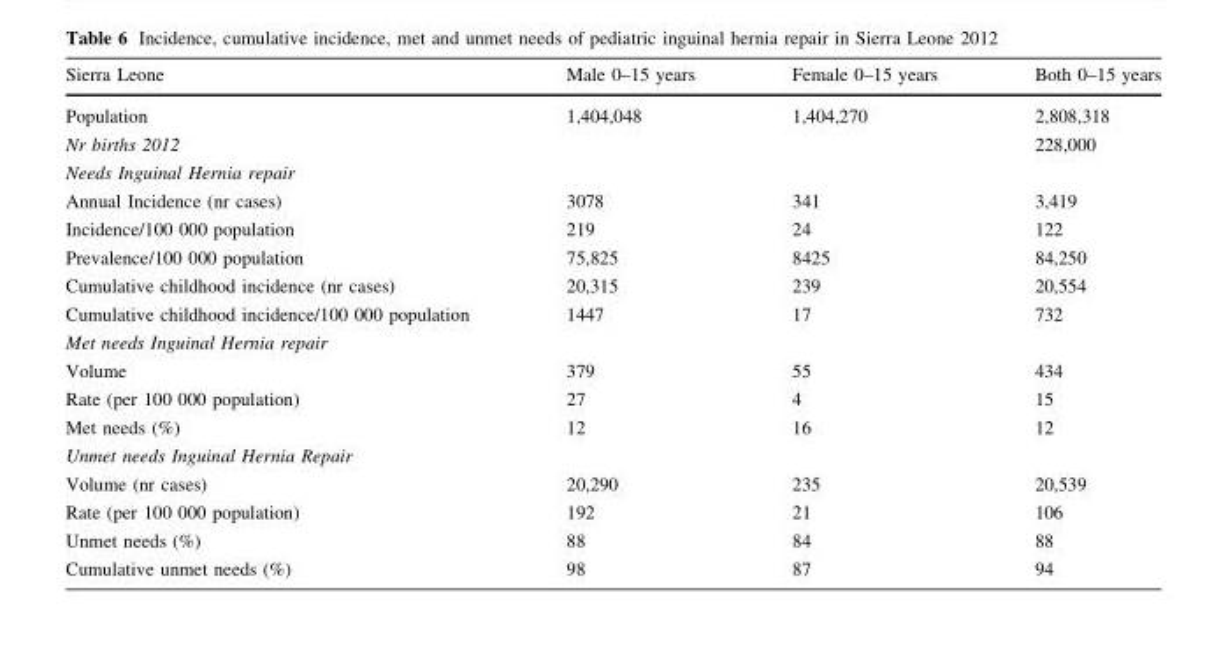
<table><thead><tr><td>Sierra Leone</td><td>Male 0–15 years</td><td>Female 0–15 years</td><td>Both 0–15 years</td></tr></thead><tbody><tr><td>Population</td><td>1,404,048</td><td>1,404,270</td><td>2,808,318</td></tr><tr><td>Nr births 2012</td><td></td><td></td><td>228,000</td></tr><tr><td colspan="4">Needs Inguinal Hernia repair</td></tr><tr><td>Annual Incidence (nr cases)</td><td>3078</td><td>341</td><td>3,419</td></tr><tr><td>Incidence/100 000 population</td><td>219</td><td>24</td><td>122</td></tr><tr><td>Prevalence/100 000 population</td><td>75,825</td><td>8425</td><td>84,250</td></tr><tr><td>Cumulative childhood incidence (nr cases)</td><td>20,315</td><td>239</td><td>20,554</td></tr><tr><td>Cumulative childhood incidence/100 000 population</td><td>1447</td><td>17</td><td>732</td></tr><tr><td colspan="4">Met needs Inguinal Hernia repair</td></tr><tr><td>Volume</td><td>379</td><td>55</td><td>434</td></tr><tr><td>Rate (per 100 000 population)</td><td>27</td><td>4</td><td>15</td></tr><tr><td>Met needs (%)</td><td>12</td><td>16</td><td>12</td></tr><tr><td colspan="4">Unmet needs Inguinal Hernia Repair</td></tr><tr><td>Volume (nr cases)</td><td>20,290</td><td>235</td><td>20,539</td></tr><tr><td>Rate (per 100 000 population)</td><td>192</td><td>21</td><td>106</td></tr><tr><td>Unmet needs (%)</td><td>88</td><td>84</td><td>88</td></tr><tr><td>Cumulative unmet needs (%)</td><td>98</td><td>87</td><td>94</td></tr></tbody></table>